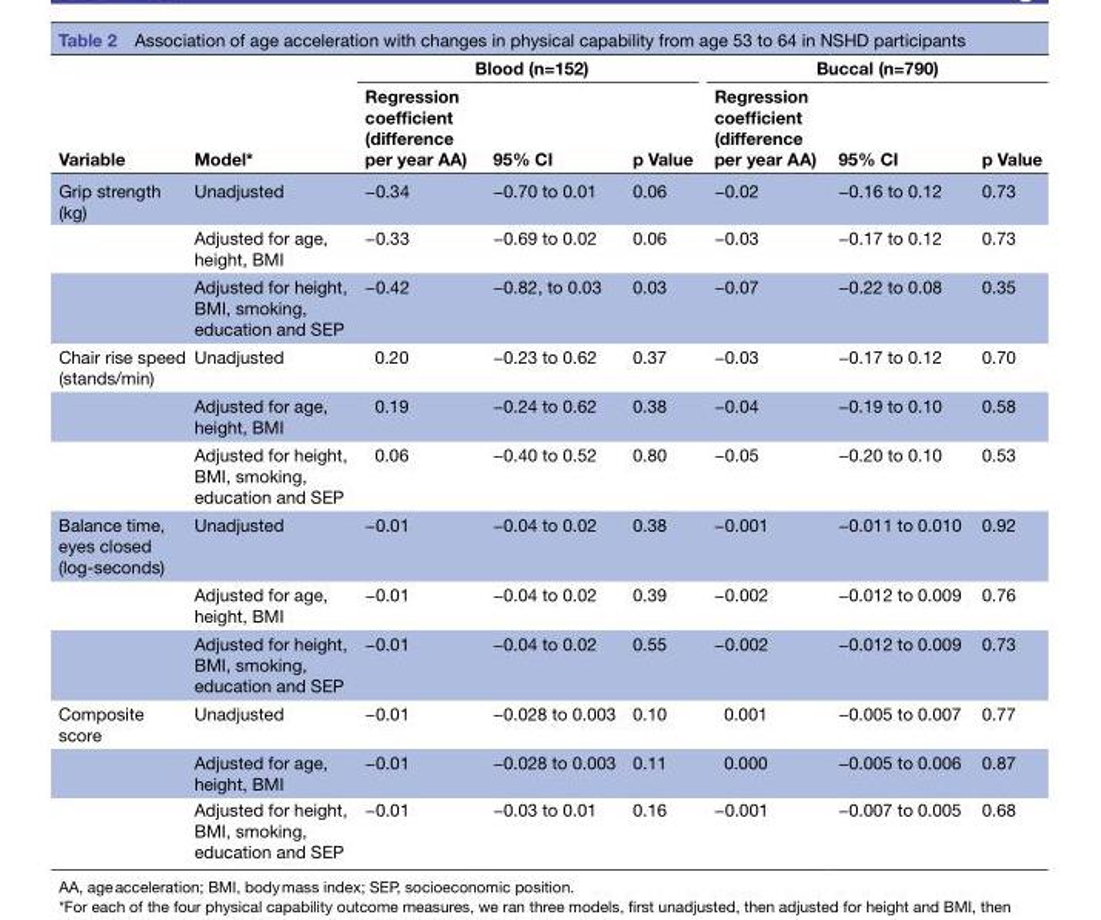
<table><thead><tr><td rowspan="2">Variable</td><td rowspan="2">Model*</td><td colspan="3">Blood (n=152)</td><td colspan="3">Buccal (n=790)</td></tr><tr><td>Regression coefficient (difference per year AA)</td><td>95% CI</td><td>p Value</td><td>Regression coefficient (difference per year AA)</td><td>95% CI</td><td>p Value</td></tr></thead><tbody><tr><td rowspan="3">Grip strength (kg)</td><td>Unadjusted</td><td>−0.34</td><td>−0.70 to 0.01</td><td>0.06</td><td>−0.02</td><td>−0.16 to 0.12</td><td>0.73</td></tr><tr><td>Adjusted for age, height, BMI</td><td>−0.33</td><td>−0.69 to 0.02</td><td>0.06</td><td>−0.03</td><td>−0.17 to 0.12</td><td>0.73</td></tr><tr><td>Adjusted for height, BMI, smoking, education and SEP</td><td>−0.42</td><td>−0.82, to 0.03</td><td>0.03</td><td>−0.07</td><td>−0.22 to 0.08</td><td>0.35</td></tr><tr><td rowspan="3">Chair rise speed (stands/min)</td><td>Unadjusted</td><td>0.20</td><td>−0.23 to 0.62</td><td>0.37</td><td>−0.03</td><td>−0.17 to 0.12</td><td>0.70</td></tr><tr><td>Adjusted for age, height, BMI</td><td>0.19</td><td>−0.24 to 0.62</td><td>0.38</td><td>−0.04</td><td>−0.19 to 0.10</td><td>0.58</td></tr><tr><td>Adjusted for height, BMI, smoking, education and SEP</td><td>0.06</td><td>−0.40 to 0.52</td><td>0.80</td><td>−0.05</td><td>−0.20 to 0.10</td><td>0.53</td></tr><tr><td rowspan="3">Balance time, eyes closed (log-seconds)</td><td>Unadjusted</td><td>−0.01</td><td>−0.04 to 0.02</td><td>0.38</td><td>−0.001</td><td>−0.011 to 0.010</td><td>0.92</td></tr><tr><td>Adjusted for age, height, BMI</td><td>−0.01</td><td>−0.04 to 0.02</td><td>0.39</td><td>−0.002</td><td>−0.012 to 0.009</td><td>0.76</td></tr><tr><td>Adjusted for height, BMI, smoking, education and SEP</td><td>−0.01</td><td>−0.04 to 0.02</td><td>0.55</td><td>−0.002</td><td>−0.012 to 0.009</td><td>0.73</td></tr><tr><td rowspan="3">Composite score</td><td>Unadjusted</td><td>−0.01</td><td>−0.028 to 0.003</td><td>0.10</td><td>0.001</td><td>−0.005 to 0.007</td><td>0.77</td></tr><tr><td>Adjusted for age, height, BMI</td><td>−0.01</td><td>−0.028 to 0.003</td><td>0.11</td><td>0.000</td><td>−0.005 to 0.006</td><td>0.87</td></tr><tr><td>Adjusted for height, BMI, smoking, education and SEP</td><td>−0.01</td><td>−0.03 to 0.01</td><td>0.16</td><td>−0.001</td><td>−0.007 to 0.005</td><td>0.68</td></tr></tbody></table>